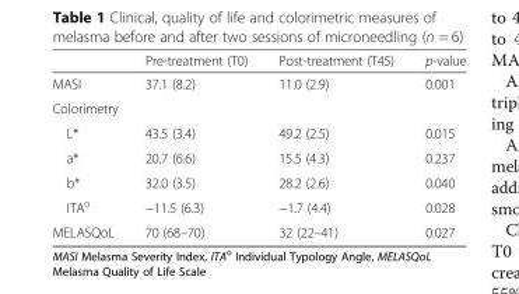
<table><thead><tr><td></td><td>Pre-treatment (T0)</td><td>Post-treatment (T45)</td><td>p-value</td></tr></thead><tbody><tr><td>MASI</td><td>37.1 (8.2)</td><td>11.0 (2.9)</td><td>0.001</td></tr><tr><td colspan="4">Colorimetry</td></tr><tr><td>L*</td><td>43.5 (3.4)</td><td>49.2 (2.5)</td><td>0.015</td></tr><tr><td>a*</td><td>20.7 (6.6)</td><td>15.5 (4.3)</td><td>0.237</td></tr><tr><td>b*</td><td>32.0 (3.5)</td><td>28.2 (2.6)</td><td>0.040</td></tr><tr><td>ITA<sup>o</sup></td><td>−11.5 (6.3)</td><td>−1.7 (4.4)</td><td>0.028</td></tr><tr><td>MELASQoL</td><td>70 (68–70)</td><td>32 (22–41)</td><td>0.027</td></tr></tbody></table>